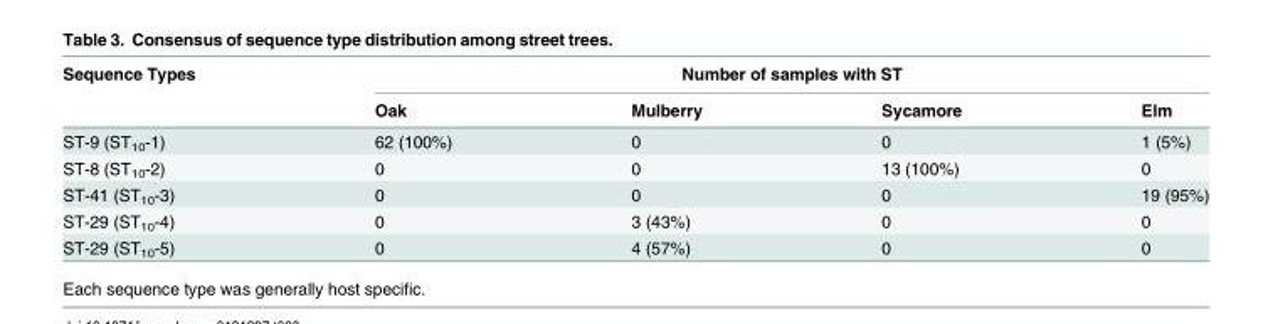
<table><thead><tr><td rowspan="2">Sequence Types</td><td colspan="4">Number of samples with ST</td></tr><tr><td>Oak</td><td>Mulberry</td><td>Sycamore</td><td>Elm</td></tr></thead><tbody><tr><td>ST-9 (ST<sub>10</sub>-1)</td><td>62 (100%)</td><td>0</td><td>0</td><td>1 (5%)</td></tr><tr><td>ST-8 (ST<sub>10</sub>-2)</td><td>0</td><td>0</td><td>13 (100%)</td><td>0</td></tr><tr><td>ST-41 (ST<sub>10</sub>-3)</td><td>0</td><td>0</td><td>0</td><td>19 (95%)</td></tr><tr><td>ST-29 (ST<sub>10</sub>-4)</td><td>0</td><td>3 (43%)</td><td>0</td><td>0</td></tr><tr><td>ST-29 (ST<sub>10</sub>-5)</td><td>0</td><td>4 (57%)</td><td>0</td><td>0</td></tr></tbody></table>